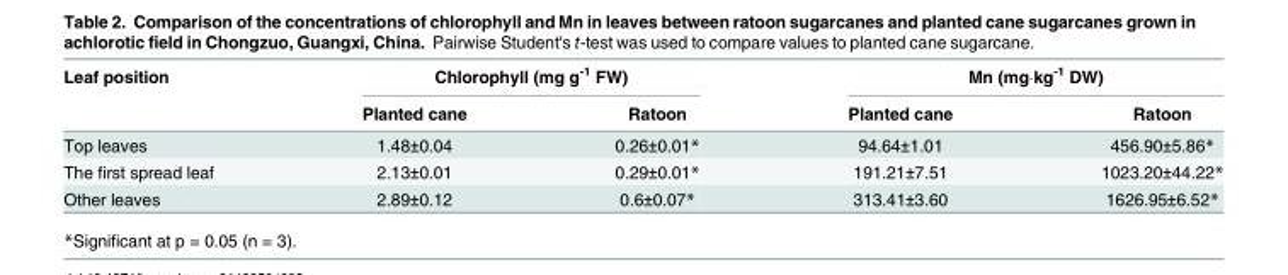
<table><thead><tr><td rowspan="2">Leaf position</td><td colspan="2">Chlorophyll (mg g<sup>-1</sup> FW)</td><td colspan="2">Mn (mg·kg<sup>-1</sup> DW)</td></tr><tr><td>Planted cane</td><td>Ratoon</td><td>Planted cane</td><td>Ratoon</td></tr></thead><tbody><tr><td>Top leaves</td><td>1.48±0.04</td><td>0.26±0.01*</td><td>94.64±1.01</td><td>456.90±5.86*</td></tr><tr><td>The first spread leaf</td><td>2.13±0.01</td><td>0.29±0.01*</td><td>191.21±7.51</td><td>1023.20±44.22*</td></tr><tr><td>Other leaves</td><td>2.89±0.12</td><td>0.6±0.07*</td><td>313.41±3.60</td><td>1626.95±6.52*</td></tr></tbody></table>